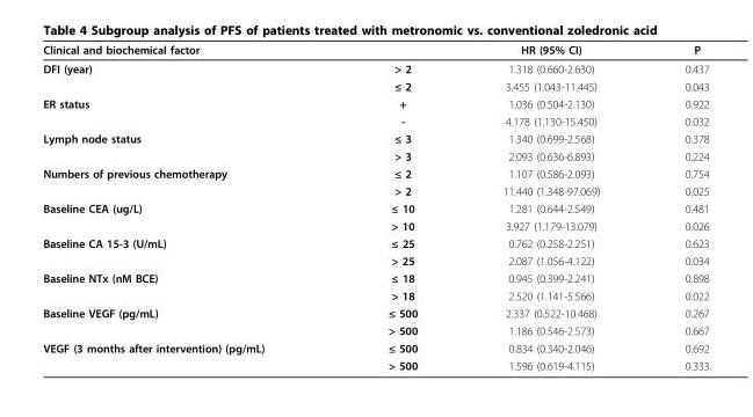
<table><thead><tr><td colspan="2">Clinical and biochemical factor</td><td rowspan="2">HR (95% CI) 1.318 (0.660-2.630)</td><td rowspan="2">P 0.437</td></tr><tr><td>DFI (year)</td><td>&gt; 2</td></tr></thead><tbody><tr><td></td><td>≤ 2</td><td>3.455 (1.043-11.445)</td><td>0.043</td></tr><tr><td rowspan="2">ER status</td><td>+</td><td>1.036 (0.504-2.130)</td><td>0.922</td></tr><tr><td>-</td><td>4.178 (1.130-15.450)</td><td>0.032</td></tr><tr><td rowspan="2">Lymph node status</td><td>≤ 3</td><td>1.340 (0.699-2.568)</td><td>0.378</td></tr><tr><td>&gt; 3</td><td>2.093 (0.636-6.893)</td><td>0.224</td></tr><tr><td rowspan="2">Numbers of previous chemotherapy</td><td>≤ 2</td><td>1.107 (0.586-2.093)</td><td>0.754</td></tr><tr><td>&gt; 2</td><td>11.440 (1.348-97.069)</td><td>0.025</td></tr><tr><td rowspan="2">Baseline CEA (ug/L)</td><td>≤ 10</td><td>1.281 (0.644-2.549)</td><td>0.481</td></tr><tr><td>&gt; 10</td><td>3.927 (1.179-13.079)</td><td>0.026</td></tr><tr><td rowspan="2">Baseline CA 15-3 (U/mL)</td><td>≤ 25</td><td>0.762 (0.258-2.251)</td><td>0.623</td></tr><tr><td>&gt; 25</td><td>2.087 (1.056-4.122)</td><td>0.034</td></tr><tr><td rowspan="2">Baseline NTx (nM BCE)</td><td>≤ 18</td><td>0.945 (0.399-2.241)</td><td>0.898</td></tr><tr><td>&gt; 18</td><td>2.520 (1.141-5.566)</td><td>0.022</td></tr><tr><td rowspan="2">Baseline VEGF (pg/mL)</td><td>≤ 500</td><td>2.337 (0.522-10.468)</td><td>0.267</td></tr><tr><td>&gt; 500</td><td>1.186 (0.546-2.573)</td><td>0.667</td></tr><tr><td rowspan="2">VEGF (3 months after intervention) (pg/mL)</td><td>≤ 500</td><td>0.834 (0.340-2.046)</td><td>0.692</td></tr><tr><td>&gt; 500</td><td>1.596 (0.619-4.115)</td><td>0.333</td></tr></tbody></table>